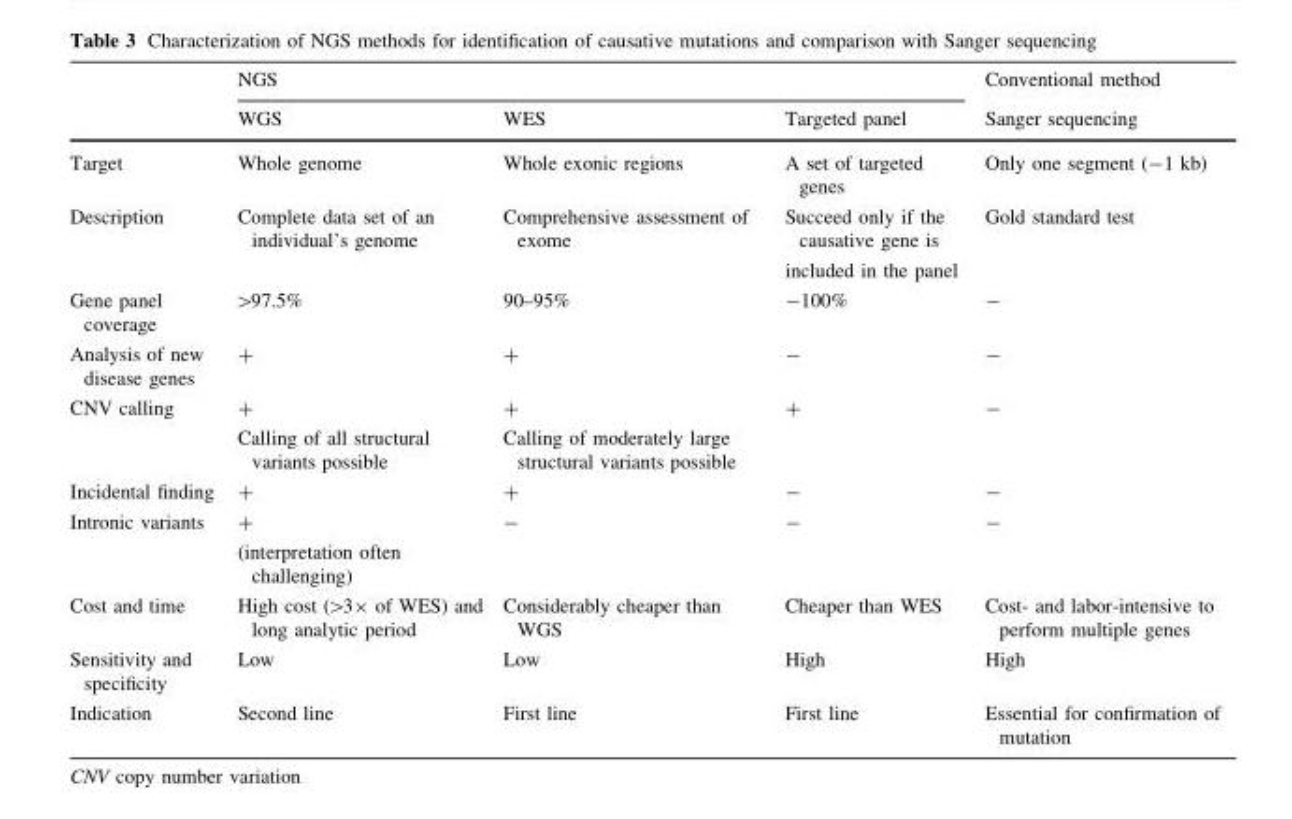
<table><thead><tr><td rowspan="2"></td><td colspan="3">NGS</td><td rowspan="2">Conventional method Sanger sequencing</td></tr><tr><td>WGS</td><td>WES</td><td>Targeted panel</td></tr></thead><tbody><tr><td>Target</td><td>Whole genome</td><td>Whole exonic regions</td><td>A set of targeted genes</td><td>Only one segment (-1 kb)</td></tr><tr><td>Description</td><td>Complete data set of an individual’s genome</td><td>Comprehensive assessment of exome</td><td>Succeed only if the causative gene is included in the panel</td><td>Gold standard test</td></tr><tr><td>Gene panel coverage</td><td>&gt;97.5%</td><td>90–95%</td><td>-100%</td><td>-</td></tr><tr><td>Analysis of new disease genes</td><td>+</td><td>+</td><td>-</td><td>-</td></tr><tr><td>CNV calling</td><td>+ Calling of all structural variants possible</td><td>+ Calling of moderately large structural variants possible</td><td>+</td><td>-</td></tr><tr><td>Incidental finding</td><td>+</td><td>+</td><td>-</td><td>-</td></tr><tr><td>Intronic variants</td><td>+ (interpretation often challenging)</td><td>-</td><td>-</td><td>-</td></tr><tr><td>Cost and time</td><td>High cost (&gt;3× of WES) and long analytic period</td><td>Considerably cheaper than WGS</td><td>Cheaper than WES</td><td>Cost- and labor-intensive to perform multiple genes</td></tr><tr><td>Sensitivity and specificity</td><td>Low</td><td>Low</td><td>High</td><td>High</td></tr><tr><td>Indication</td><td>Second line</td><td>First line</td><td>First line</td><td>Essential for confirmation of mutation</td></tr></tbody></table>